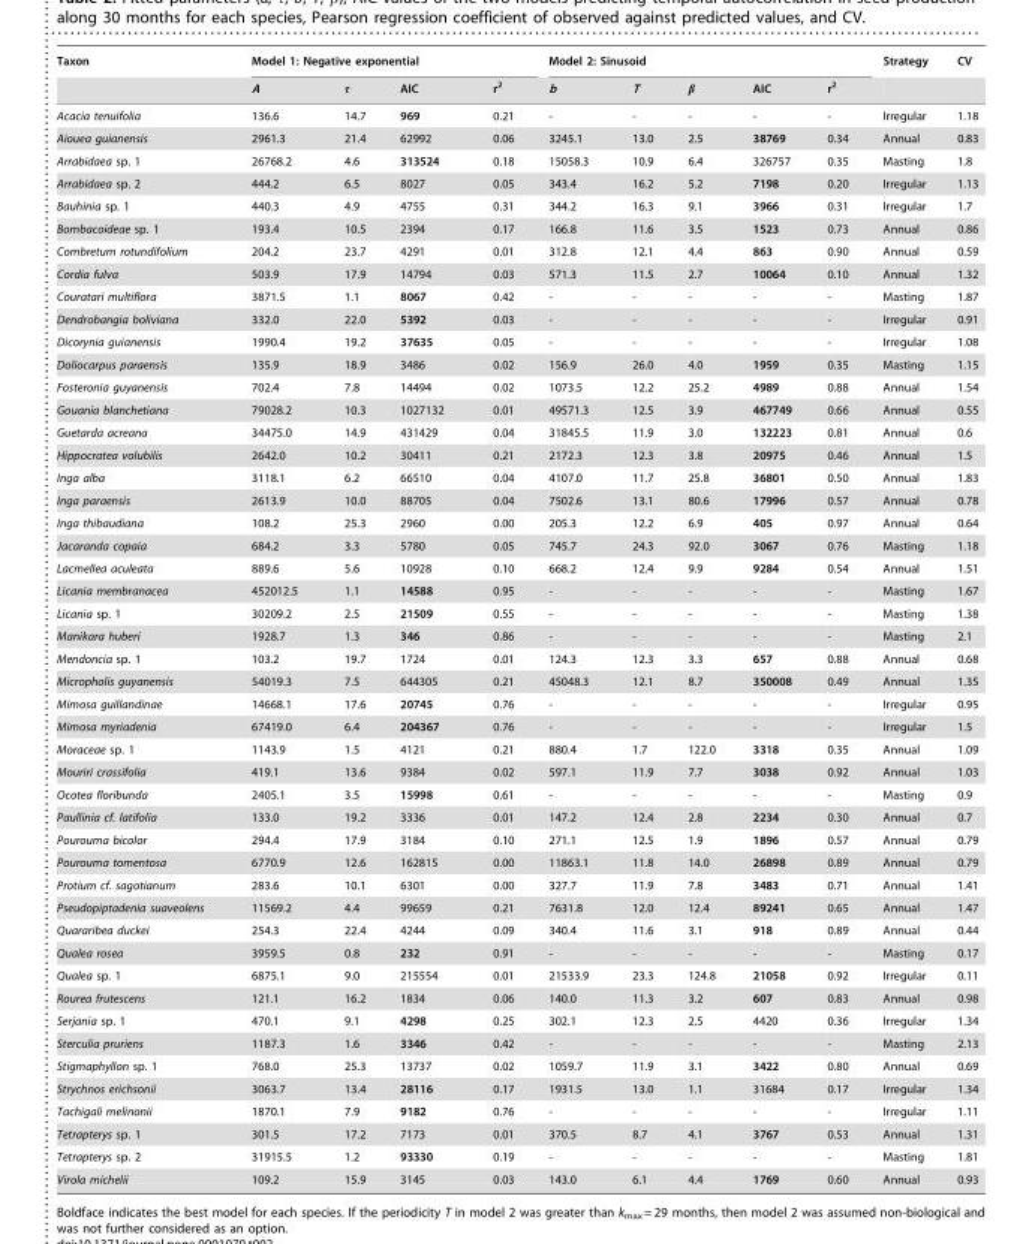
<table><thead><tr><td rowspan="2">Taxon</td><td colspan="4">Model 1: Negative exponential</td><td colspan="5">Model 2: Sinusoid</td><td rowspan="2">Strategy</td><td rowspan="2">CV</td></tr><tr><td>A</td><td>τ</td><td>AIC</td><td>r<sup>2</sup></td><td>b</td><td>T</td><td>β</td><td>AIC</td><td>r<sup>2</sup></td></tr></thead><tbody><tr><td>Acacia tenuifolia</td><td>136.6</td><td>14.7</td><td>969</td><td>0.21</td><td>-</td><td>-</td><td>-</td><td>-</td><td>-</td><td>Irregular</td><td>1.18</td></tr><tr><td>Aiouea guianensis</td><td>2961.3</td><td>21.4</td><td>62992</td><td>0.06</td><td>3245.1</td><td>13.0</td><td>2.5</td><td>38769</td><td>0.34</td><td>Annual</td><td>0.83</td></tr><tr><td>Arrabidaea sp. 1</td><td>26768.2</td><td>4.6</td><td>313524</td><td>0.18</td><td>15058.3</td><td>10.9</td><td>6.4</td><td>326757</td><td>0.35</td><td>Masting</td><td>1.8</td></tr><tr><td>Arrabidaea sp. 2</td><td>444.2</td><td>6.5</td><td>8027</td><td>0.05</td><td>343.4</td><td>16.2</td><td>5.2</td><td>7198</td><td>0.20</td><td>Irregular</td><td>1.13</td></tr><tr><td>Bauhinia sp. 1</td><td>440.3</td><td>4.9</td><td>4755</td><td>0.31</td><td>344.2</td><td>16.3</td><td>9.1</td><td>3966</td><td>0.31</td><td>Irregular</td><td>1.7</td></tr><tr><td>Bombacoideae sp. 1</td><td>193.4</td><td>10.5</td><td>2394</td><td>0.17</td><td>166.8</td><td>11.6</td><td>3.5</td><td>1523</td><td>0.73</td><td>Annual</td><td>0.86</td></tr><tr><td>Combretum rotundifolium</td><td>204.2</td><td>23.7</td><td>4291</td><td>0.01</td><td>312.8</td><td>12.1</td><td>4.4</td><td>863</td><td>0.90</td><td>Annual</td><td>0.59</td></tr><tr><td>Cordia fulva</td><td>503.9</td><td>17.9</td><td>14794</td><td>0.03</td><td>571.3</td><td>11.5</td><td>2.7</td><td>10064</td><td>0.10</td><td>Annual</td><td>1.32</td></tr><tr><td>Couratari multiflora</td><td>3871.5</td><td>1.1</td><td>8067</td><td>0.42</td><td>-</td><td>-</td><td>-</td><td>-</td><td>-</td><td>Masting</td><td>1.87</td></tr><tr><td>Dendrobangia boliviana</td><td>332.0</td><td>22.0</td><td>5392</td><td>0.03</td><td>-</td><td>-</td><td>-</td><td>-</td><td>-</td><td>Irregular</td><td>0.91</td></tr><tr><td>Dicorynia guianensis</td><td>1990.4</td><td>19.2</td><td>37635</td><td>0.05</td><td>-</td><td>-</td><td>-</td><td>-</td><td>-</td><td>Irregular</td><td>1.08</td></tr><tr><td>Doliocarpus paraensis</td><td>135.9</td><td>18.9</td><td>3486</td><td>0.02</td><td>156.9</td><td>26.0</td><td>4.0</td><td>1959</td><td>0.35</td><td>Masting</td><td>1.15</td></tr><tr><td>Fosteronia guyanensis</td><td>702.4</td><td>7.8</td><td>14494</td><td>0.02</td><td>1073.5</td><td>12.2</td><td>25.2</td><td>4989</td><td>0.88</td><td>Annual</td><td>1.54</td></tr><tr><td>Gouania blanchetiana</td><td>79028.2</td><td>10.3</td><td>1027132</td><td>0.01</td><td>49571.3</td><td>12.5</td><td>3.9</td><td>467749</td><td>0.66</td><td>Annual</td><td>0.55</td></tr><tr><td>Guetarda acreana</td><td>34475.0</td><td>14.9</td><td>431429</td><td>0.04</td><td>31845.5</td><td>11.9</td><td>3.0</td><td>132223</td><td>0.81</td><td>Annual</td><td>0.6</td></tr><tr><td>Hippocratea volubilis</td><td>2642.0</td><td>10.2</td><td>30411</td><td>0.21</td><td>2172.3</td><td>12.3</td><td>3.8</td><td>20975</td><td>0.46</td><td>Annual</td><td>1.5</td></tr><tr><td>Inga alba</td><td>3118.1</td><td>6.2</td><td>66510</td><td>0.04</td><td>4107.0</td><td>11.7</td><td>25.8</td><td>36801</td><td>0.50</td><td>Annual</td><td>1.83</td></tr><tr><td>Inga paraensis</td><td>2613.9</td><td>10.0</td><td>88705</td><td>0.04</td><td>7502.6</td><td>13.1</td><td>80.6</td><td>17996</td><td>0.57</td><td>Annual</td><td>0.78</td></tr><tr><td>Inga thibaudiana</td><td>108.2</td><td>25.3</td><td>2960</td><td>0.00</td><td>205.3</td><td>12.2</td><td>6.9</td><td>405</td><td>0.97</td><td>Annual</td><td>0.64</td></tr><tr><td>Jacaranda copaia</td><td>684.2</td><td>3.3</td><td>5780</td><td>0.05</td><td>745.7</td><td>24.3</td><td>92.0</td><td>3067</td><td>0.76</td><td>Masting</td><td>1.18</td></tr><tr><td>Lacmellea aculeata</td><td>889.6</td><td>5.6</td><td>10928</td><td>0.10</td><td>668.2</td><td>12.4</td><td>9.9</td><td>9284</td><td>0.54</td><td>Annual</td><td>1.51</td></tr><tr><td>Licania membranacea</td><td>452012.5</td><td>1.1</td><td>14588</td><td>0.95</td><td>-</td><td>-</td><td>-</td><td>-</td><td>-</td><td>Masting</td><td>1.67</td></tr><tr><td>Licania sp. 1</td><td>30209.2</td><td>2.5</td><td>21509</td><td>0.55</td><td>-</td><td>-</td><td>-</td><td>-</td><td>-</td><td>Masting</td><td>1.38</td></tr><tr><td>Manikara huberi</td><td>1928.7</td><td>1.3</td><td>346</td><td>0.86</td><td>-</td><td>-</td><td>-</td><td>-</td><td>-</td><td>Masting</td><td>2.1</td></tr><tr><td>Mendoncia sp. 1</td><td>103.2</td><td>19.7</td><td>1724</td><td>0.01</td><td>124.3</td><td>12.3</td><td>3.3</td><td>657</td><td>0.88</td><td>Annual</td><td>0.68</td></tr><tr><td>Micropholis guyanensis</td><td>54019.3</td><td>7.5</td><td>644305</td><td>0.21</td><td>45048.3</td><td>12.1</td><td>8.7</td><td>350008</td><td>0.49</td><td>Annual</td><td>1.35</td></tr><tr><td>Mimosa guillandinae</td><td>14668.1</td><td>17.6</td><td>20745</td><td>0.76</td><td>-</td><td>-</td><td>-</td><td>-</td><td>-</td><td>Irregular</td><td>0.95</td></tr><tr><td>Mimosa myriadenia</td><td>67419.0</td><td>6.4</td><td>204367</td><td>0.76</td><td>-</td><td>-</td><td>-</td><td>-</td><td>-</td><td>Irregular</td><td>1.5</td></tr><tr><td>Moraceae sp. 1</td><td>1143.9</td><td>1.5</td><td>4121</td><td>0.21</td><td>880.4</td><td>1.7</td><td>122.0</td><td>3318</td><td>0.35</td><td>Annual</td><td>1.09</td></tr><tr><td>Mouriri crassifolia</td><td>419.1</td><td>13.6</td><td>9384</td><td>0.02</td><td>597.1</td><td>11.9</td><td>7.7</td><td>3038</td><td>0.92</td><td>Annual</td><td>1.03</td></tr><tr><td>Ocotea floribunda</td><td>2405.1</td><td>3.5</td><td>15998</td><td>0.61</td><td>-</td><td>-</td><td>-</td><td>-</td><td>-</td><td>Masting</td><td>0.9</td></tr><tr><td>Paullinia cf. latifolia</td><td>133.0</td><td>19.2</td><td>3336</td><td>0.01</td><td>147.2</td><td>12.4</td><td>2.8</td><td>2234</td><td>0.30</td><td>Annual</td><td>0.7</td></tr><tr><td>Pourouma bicolor</td><td>294.4</td><td>17.9</td><td>3184</td><td>0.10</td><td>271.1</td><td>12.5</td><td>1.9</td><td>1896</td><td>0.57</td><td>Annual</td><td>0.79</td></tr><tr><td>Pourouma tomentosa</td><td>6770.9</td><td>12.6</td><td>162815</td><td>0.00</td><td>11863.1</td><td>11.8</td><td>14.0</td><td>26898</td><td>0.89</td><td>Annual</td><td>0.79</td></tr><tr><td>Protium cf. sagotianum</td><td>283.6</td><td>10.1</td><td>6301</td><td>0.00</td><td>327.7</td><td>11.9</td><td>7.8</td><td>3483</td><td>0.71</td><td>Annual</td><td>1.41</td></tr><tr><td>Pseudopiptadenia suaveolens</td><td>11569.2</td><td>4.4</td><td>99659</td><td>0.21</td><td>7631.8</td><td>12.0</td><td>12.4</td><td>89241</td><td>0.65</td><td>Annual</td><td>1.47</td></tr><tr><td>Quararibea duckei</td><td>254.3</td><td>22.4</td><td>4244</td><td>0.09</td><td>340.4</td><td>11.6</td><td>3.1</td><td>918</td><td>0.89</td><td>Annual</td><td>0.44</td></tr><tr><td>Qualea rosea</td><td>3959.5</td><td>0.8</td><td>232</td><td>0.91</td><td>-</td><td>-</td><td>-</td><td>-</td><td>-</td><td>Masting</td><td>0.17</td></tr><tr><td>Qualea sp. 1</td><td>6875.1</td><td>9.0</td><td>215554</td><td>0.01</td><td>21533.9</td><td>23.3</td><td>124.8</td><td>21058</td><td>0.92</td><td>Irregular</td><td>0.11</td></tr><tr><td>Rourea frutescens</td><td>121.1</td><td>16.2</td><td>1834</td><td>0.06</td><td>140.0</td><td>11.3</td><td>3.2</td><td>607</td><td>0.83</td><td>Annual</td><td>0.98</td></tr><tr><td>Serjania sp. 1</td><td>470.1</td><td>9.1</td><td>4298</td><td>0.25</td><td>302.1</td><td>12.3</td><td>2.5</td><td>4420</td><td>0.36</td><td>Irregular</td><td>1.34</td></tr><tr><td>Sterculia pruriens</td><td>1187.3</td><td>1.6</td><td>3346</td><td>0.42</td><td>-</td><td>-</td><td>-</td><td>-</td><td>-</td><td>Masting</td><td>2.13</td></tr><tr><td>Stigmaphyllon sp. 1</td><td>768.0</td><td>25.3</td><td>13737</td><td>0.02</td><td>1059.7</td><td>11.9</td><td>3.1</td><td>3422</td><td>0.80</td><td>Annual</td><td>0.69</td></tr><tr><td>Strychnos erichsonii</td><td>3063.7</td><td>13.4</td><td>28116</td><td>0.17</td><td>1931.5</td><td>13.0</td><td>1.1</td><td>31684</td><td>0.17</td><td>Irregular</td><td>1.34</td></tr><tr><td>Tachigali melinonii</td><td>1870.1</td><td>7.9</td><td>9182</td><td>0.76</td><td>-</td><td>-</td><td>-</td><td>-</td><td>-</td><td>Irregular</td><td>1.11</td></tr><tr><td>Tetrapterys sp. 1</td><td>301.5</td><td>17.2</td><td>7173</td><td>0.01</td><td>370.5</td><td>8.7</td><td>4.1</td><td>3767</td><td>0.53</td><td>Annual</td><td>1.31</td></tr><tr><td>Tetrapterys sp. 2</td><td>31915.5</td><td>1.2</td><td>93330</td><td>0.19</td><td>-</td><td>-</td><td>-</td><td>-</td><td>-</td><td>Masting</td><td>1.81</td></tr><tr><td>Virola michelii</td><td>109.2</td><td>15.9</td><td>3145</td><td>0.03</td><td>143.0</td><td>6.1</td><td>4.4</td><td>1769</td><td>0.60</td><td>Annual</td><td>0.93</td></tr></tbody></table>